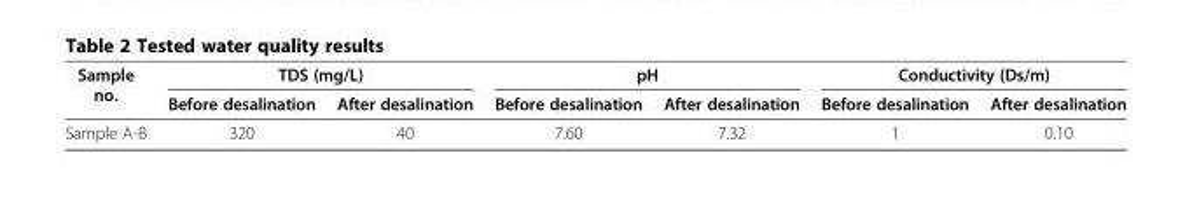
<table><thead><tr><td rowspan="2">Sample no.</td><td colspan="2">TDS (mg/L)</td><td colspan="2">pH</td><td colspan="2">Conductivity (Ds/m)</td></tr><tr><td>Before desalination</td><td>After desalination</td><td>Before desalination</td><td>After desalination</td><td>Before desalination</td><td>After desalination</td></tr></thead><tbody><tr><td>Sample A-B</td><td>320</td><td>40</td><td>7.60</td><td>7.32</td><td>1</td><td>0.10</td></tr></tbody></table>